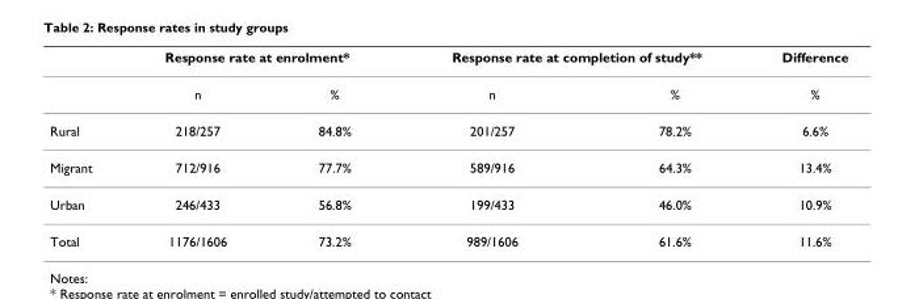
<table><thead><tr><td rowspan="2"></td><td colspan="2">Response rate at enrolment*</td><td colspan="2">Response rate at completion of study**</td><td rowspan="2">Difference %</td></tr><tr><td>n</td><td>%</td><td>n</td><td>%</td></tr></thead><tbody><tr><td>Rural</td><td>218/257</td><td>84.8%</td><td>201/257</td><td>78.2%</td><td>6.6%</td></tr><tr><td>Migrant</td><td>712/916</td><td>77.7%</td><td>589/916</td><td>64.3%</td><td>13.4%</td></tr><tr><td>Urban</td><td>246/433</td><td>56.8%</td><td>199/433</td><td>46.0%</td><td>10.9%</td></tr><tr><td>Total</td><td>1176/1606</td><td>73.2%</td><td>989/1606</td><td>61.6%</td><td>11.6%</td></tr></tbody></table>